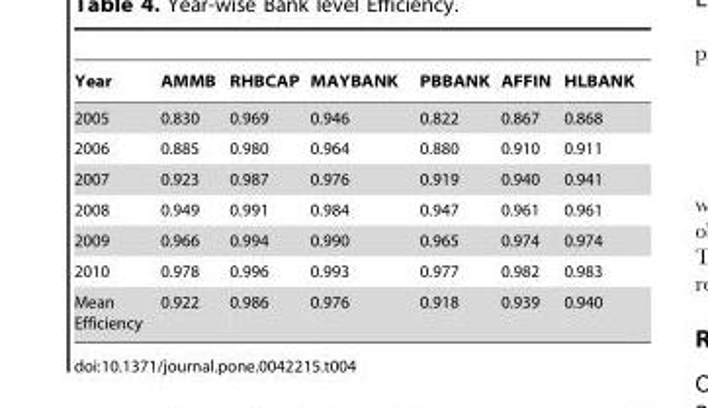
<table><thead><tr><td>Year</td><td>AMMB</td><td>RHBCAP</td><td>MAYBANK</td><td>PBBANK</td><td>AFFIN</td><td>HLBANK</td></tr></thead><tbody><tr><td>2005</td><td>0.830</td><td>0.969</td><td>0.946</td><td>0.822</td><td>0.867</td><td>0.868</td></tr><tr><td>2006</td><td>0.885</td><td>0.980</td><td>0.964</td><td>0.880</td><td>0.910</td><td>0.911</td></tr><tr><td>2007</td><td>0.923</td><td>0.987</td><td>0.976</td><td>0.919</td><td>0.940</td><td>0.941</td></tr><tr><td>2008</td><td>0.949</td><td>0.991</td><td>0.984</td><td>0.947</td><td>0.961</td><td>0.961</td></tr><tr><td>2009</td><td>0.966</td><td>0.994</td><td>0.990</td><td>0.965</td><td>0.974</td><td>0.974</td></tr><tr><td>2010</td><td>0.978</td><td>0.996</td><td>0.993</td><td>0.977</td><td>0.982</td><td>0.983</td></tr><tr><td>Mean Efficiency</td><td>0.922</td><td>0.986</td><td>0.976</td><td>0.918</td><td>0.939</td><td>0.940</td></tr></tbody></table>